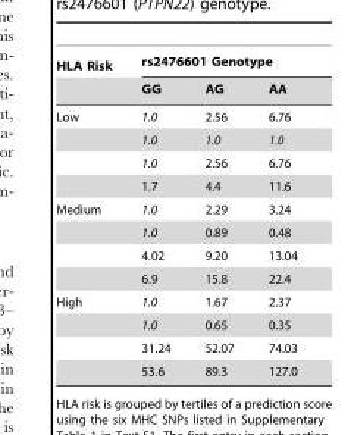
<table><thead><tr><td rowspan="2">HLA Risk</td><td colspan="3">rs2476601 Genotype</td></tr><tr><td>GG</td><td>AG</td><td>AA</td></tr></thead><tbody><tr><td rowspan="4">Low</td><td>1.0</td><td>2.56</td><td>6.76</td></tr><tr><td>1.0</td><td>1.0</td><td>1.0</td></tr><tr><td>1.0</td><td>2.56</td><td>6.76</td></tr><tr><td>1.7</td><td>4.4</td><td>11.6</td></tr><tr><td rowspan="4">Medium</td><td>1.0</td><td>2.29</td><td>3.24</td></tr><tr><td>1.0</td><td>0.89</td><td>0.48</td></tr><tr><td>4.02</td><td>9.20</td><td>13.04</td></tr><tr><td>6.9</td><td>15.8</td><td>22.4</td></tr><tr><td rowspan="4">High</td><td>1.0</td><td>1.67</td><td>2.37</td></tr><tr><td>1.0</td><td>0.65</td><td>0.35</td></tr><tr><td>31.24</td><td>52.07</td><td>74.03</td></tr><tr><td>53.6</td><td>89.3</td><td>127.0</td></tr></tbody></table>